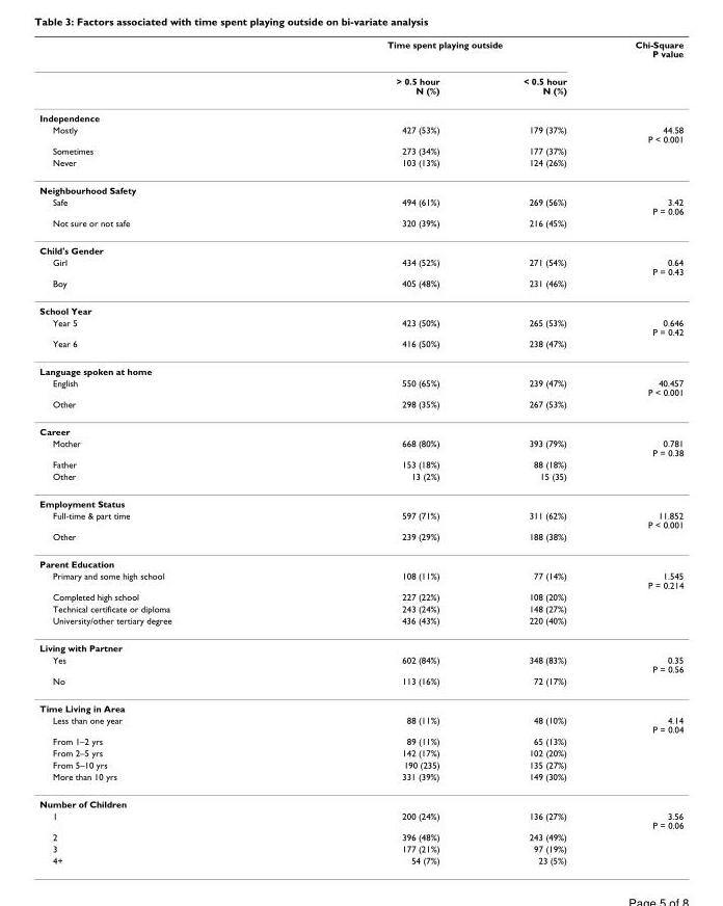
<table><thead><tr><td rowspan="2"></td><td colspan="2">Time spent playing outside</td><td rowspan="2">Chi-Square P value</td></tr><tr><td>&gt; 0.5 hour N (%)</td><td>&lt; 0.5 hour N (%)</td></tr></thead><tbody><tr><td colspan="4">Independence</td></tr><tr><td>Mostly</td><td>427 (53%)</td><td>179 (37%)</td><td>44.58 P &lt; 0.001</td></tr><tr><td>Sometimes</td><td>273 (34%)</td><td>177 (37%)</td><td></td></tr><tr><td>Never</td><td>103 (13%)</td><td>124 (26%)</td><td></td></tr><tr><td colspan="4">Neighbourhood Safety</td></tr><tr><td>Safe</td><td>494 (61%)</td><td>269 (56%)</td><td>3.42 P = 0.06</td></tr><tr><td>Not sure or not safe</td><td>320 (39%)</td><td>216 (45%)</td><td></td></tr><tr><td colspan="4">Child&#x27;s Gender</td></tr><tr><td>Girl</td><td>434 (52%)</td><td>271 (54%)</td><td>0.64 P = 0.43</td></tr><tr><td>Boy</td><td>405 (48%)</td><td>231 (46%)</td><td></td></tr><tr><td colspan="4">School Year</td></tr><tr><td>Year 5</td><td>423 (50%)</td><td>265 (53%)</td><td>0.646 P = 0.42</td></tr><tr><td>Year 6</td><td>416 (50%)</td><td>238 (47%)</td><td></td></tr><tr><td colspan="4">Language spoken at home</td></tr><tr><td>English</td><td>550 (65%)</td><td>239 (47%)</td><td>40.457 P &lt; 0.001</td></tr><tr><td>Other</td><td>298 (35%)</td><td>267 (53%)</td><td></td></tr><tr><td colspan="4">Career</td></tr><tr><td>Mother</td><td>668 (80%)</td><td>393 (79%)</td><td>0.781 P = 0.38</td></tr><tr><td>Father</td><td>153 (18%)</td><td>88 (18%)</td><td></td></tr><tr><td>Other</td><td>13 (2%)</td><td>15 (35)</td><td></td></tr><tr><td colspan="4">Employment Status</td></tr><tr><td>Full-time &amp; part time</td><td>597 (71%)</td><td>311 (62%)</td><td>11.852 P &lt; 0.001</td></tr><tr><td>Other</td><td>239 (29%)</td><td>188 (38%)</td><td></td></tr><tr><td colspan="4">Parent Education</td></tr><tr><td>Primary and some high school</td><td>108 (11%)</td><td>77 (14%)</td><td>1.545 P = 0.214</td></tr><tr><td>Completed high school</td><td>227 (22%)</td><td>108 (20%)</td><td></td></tr><tr><td>Technical certificate or diploma</td><td>243 (24%)</td><td>148 (27%)</td><td></td></tr><tr><td>University/other tertiary degree</td><td>436 (43%)</td><td>220 (40%)</td><td></td></tr><tr><td colspan="4">Living with Partner</td></tr><tr><td>Yes</td><td>602 (84%)</td><td>348 (83%)</td><td>0.35 P = 0.56</td></tr><tr><td>No</td><td>113 (16%)</td><td>72 (17%)</td><td></td></tr><tr><td colspan="4">Time Living in Area</td></tr><tr><td>Less than one year</td><td>88 (11%)</td><td>48 (10%)</td><td>4.14 P = 0.04</td></tr><tr><td>From 1–2 yrs</td><td>89 (11%)</td><td>65 (13%)</td><td></td></tr><tr><td>From 2–5 yrs</td><td>142 (17%)</td><td>102 (20%)</td><td></td></tr><tr><td>From 5–10 yrs</td><td>190 (235)</td><td>135 (27%)</td><td></td></tr><tr><td>More than 10 yrs</td><td>331 (39%)</td><td>149 (30%)</td><td></td></tr><tr><td colspan="4">Number of Children</td></tr><tr><td>1</td><td>200 (24%)</td><td>136 (27%)</td><td>3.56 P = 0.06</td></tr><tr><td>2</td><td>396 (48%)</td><td>243 (49%)</td><td></td></tr><tr><td>3</td><td>177 (21%)</td><td>97 (19%)</td><td></td></tr><tr><td>4+</td><td>54 (7%)</td><td>23 (5%)</td><td></td></tr></tbody></table>